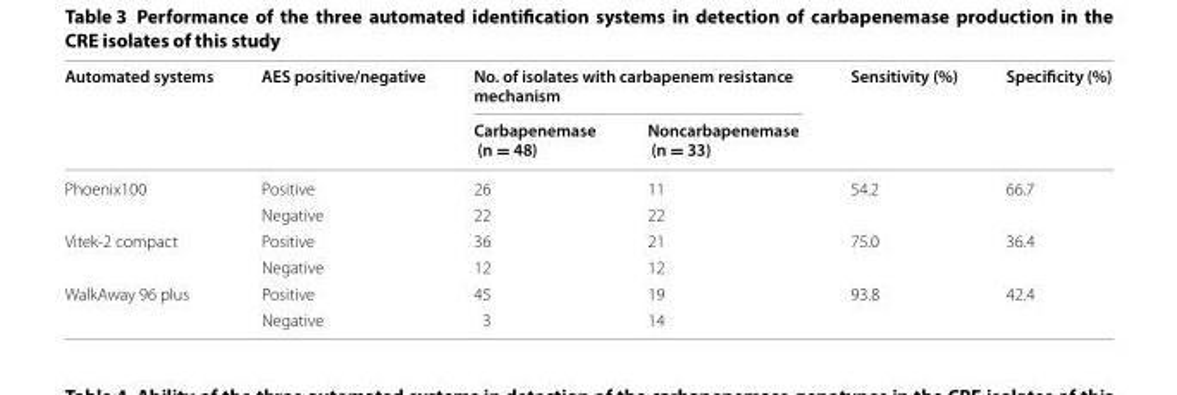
<table><thead><tr><td rowspan="2">Automated systems</td><td rowspan="2">AES positive/negative</td><td colspan="2">No. of isolates with carbapenem resistance mechanism</td><td rowspan="2">Sensitivity (%)</td><td rowspan="2">Specificity (%)</td></tr><tr><td>Carbapenemase (n = 48)</td><td>Noncarbapenemase (n = 33)</td></tr></thead><tbody><tr><td rowspan="2">Phoenix100</td><td>Positive</td><td>26</td><td>11</td><td>54.2</td><td>66.7</td></tr><tr><td>Negative</td><td>22</td><td>22</td><td></td><td></td></tr><tr><td rowspan="2">Vitek-2 compact</td><td>Positive</td><td>36</td><td>21</td><td>75.0</td><td>36.4</td></tr><tr><td>Negative</td><td>12</td><td>12</td><td></td><td></td></tr><tr><td rowspan="2">WalkAway 96 plus</td><td>Positive</td><td>45</td><td>19</td><td>93.8</td><td>42.4</td></tr><tr><td>Negative</td><td>3</td><td>14</td><td></td><td></td></tr></tbody></table>